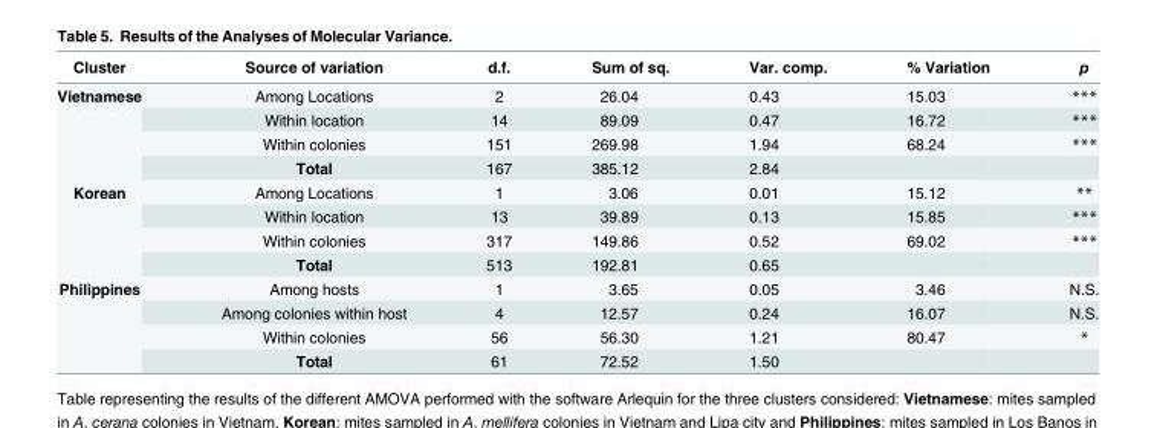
<table><thead><tr><td>Cluster</td><td>Source of variation</td><td>d.f.</td><td>Sum of sq.</td><td>Var. comp.</td><td>% Variation</td><td>p</td></tr></thead><tbody><tr><td rowspan="4">Vietnamese</td><td>Among Locations</td><td>2</td><td>26.04</td><td>0.43</td><td>15.03</td><td>***</td></tr><tr><td>Within location</td><td>14</td><td>89.09</td><td>0.47</td><td>16.72</td><td>***</td></tr><tr><td>Within colonies</td><td>151</td><td>269.98</td><td>1.94</td><td>68.24</td><td>***</td></tr><tr><td>Total</td><td>167</td><td>385.12</td><td>2.84</td><td></td><td></td></tr><tr><td rowspan="4">Korean</td><td>Among Locations</td><td>1</td><td>3.06</td><td>0.01</td><td>15.12</td><td>**</td></tr><tr><td>Within location</td><td>13</td><td>39.89</td><td>0.13</td><td>15.85</td><td>***</td></tr><tr><td>Within colonies</td><td>317</td><td>149.86</td><td>0.52</td><td>69.02</td><td>***</td></tr><tr><td>Total</td><td>513</td><td>192.81</td><td>0.65</td><td></td><td></td></tr><tr><td rowspan="4">Philippines</td><td>Among hosts</td><td>1</td><td>3.65</td><td>0.05</td><td>3.46</td><td>N.S.</td></tr><tr><td>Among colonies within host</td><td>4</td><td>12.57</td><td>0.24</td><td>16.07</td><td>N.S.</td></tr><tr><td>Within colonies</td><td>56</td><td>56.30</td><td>1.21</td><td>80.47</td><td>*</td></tr><tr><td>Total</td><td>61</td><td>72.52</td><td>1.50</td><td></td><td></td></tr></tbody></table>